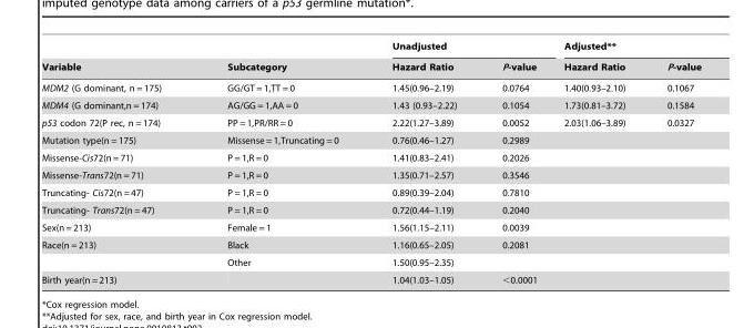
<table><thead><tr><td rowspan="2">Variable</td><td rowspan="2">Subcategory</td><td colspan="2">Unadjusted</td><td colspan="2">Adjusted**</td></tr><tr><td>Hazard Ratio</td><td>P-value</td><td>Hazard Ratio</td><td>P-value</td></tr></thead><tbody><tr><td>MDM2 (G dominant, n = 175)</td><td>GG/GT = 1,TT = 0</td><td>1.45(0.96–2.19)</td><td>0.0764</td><td>1.40(0.93–2.10)</td><td>0.1067</td></tr><tr><td>MDM4 (G dominant,n = 174)</td><td>AG/GG = 1,AA = 0</td><td>1.43 (0.93–2.22)</td><td>0.1054</td><td>1.73(0.81–3.72)</td><td>0.1584</td></tr><tr><td>p53 codon 72(P rec, n = 174)</td><td>PP = 1,PR/RR = 0</td><td>2.22(1.27–3.89)</td><td>0.0052</td><td>2.03(1.06–3.89)</td><td>0.0327</td></tr><tr><td>Mutation type(n = 175)</td><td>Missense = 1,Truncating = 0</td><td>0.76(0.46–1.27)</td><td>0.2989</td><td></td><td></td></tr><tr><td>Missense-Cis72(n = 71)</td><td>P = 1,R = 0</td><td>1.41(0.83–2.41)</td><td>0.2026</td><td></td><td></td></tr><tr><td>Missense-Trans72(n = 71)</td><td>P = 1,R = 0</td><td>1.35(0.71–2.57)</td><td>0.3546</td><td></td><td></td></tr><tr><td>Truncating- Cis72(n = 47)</td><td>P = 1,R = 0</td><td>0.89(0.39–2.04)</td><td>0.7810</td><td></td><td></td></tr><tr><td>Truncating- Trans72(n = 47)</td><td>P = 1,R = 0</td><td>0.72(0.44–1.19)</td><td>0.2040</td><td></td><td></td></tr><tr><td>Sex(n = 213)</td><td>Female = 1</td><td>1.56(1.15–2.11)</td><td>0.0039</td><td></td><td></td></tr><tr><td rowspan="2">Race(n = 213)</td><td>Black</td><td>1.16(0.65–2.05)</td><td>0.2081</td><td></td><td></td></tr><tr><td>Other</td><td>1.50(0.95–2.35)</td><td></td><td></td><td></td></tr><tr><td>Birth year(n = 213)</td><td></td><td>1.04(1.03–1.05)</td><td>&lt;0.0001</td><td></td><td></td></tr></tbody></table>